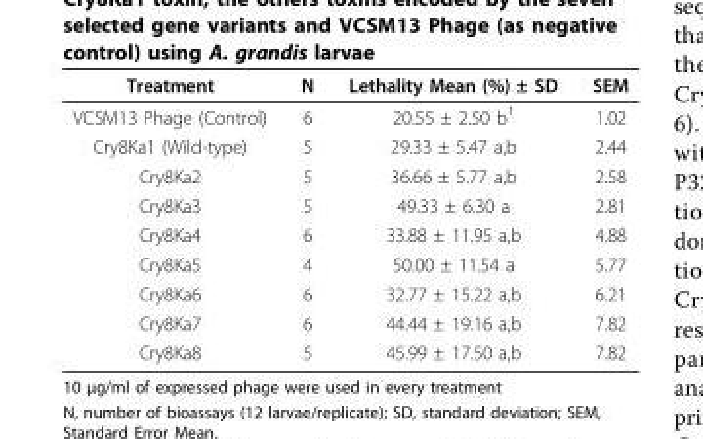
<table><thead><tr><td>Treatment</td><td>N</td><td>Lethality Mean (%) ± SD</td><td>SEM</td></tr></thead><tbody><tr><td>VCSM13 Phage (Control)</td><td>6</td><td>20.55 ± 2.50 b<sup>1</sup></td><td>1.02</td></tr><tr><td>Cry8Ka1 (Wild-type)</td><td>5</td><td>29.33 ± 5.47 a,b</td><td>2.44</td></tr><tr><td>Cry8Ka2</td><td>5</td><td>36.66 ± 5.77 a,b</td><td>2.58</td></tr><tr><td>Cry8Ka3</td><td>5</td><td>49.33 ± 6.30 a</td><td>2.81</td></tr><tr><td>Cry8Ka4</td><td>6</td><td>33.88 ± 11.95 a,b</td><td>4.88</td></tr><tr><td>Cry8Ka5</td><td>4</td><td>50.00 ± 11.54 a</td><td>5.77</td></tr><tr><td>Cry8Ka6</td><td>6</td><td>32.77 ± 15.22 a,b</td><td>6.21</td></tr><tr><td>Cry8Ka7</td><td>6</td><td>44.44 ± 19.16 a,b</td><td>7.82</td></tr><tr><td>Cry8Ka8</td><td>5</td><td>45.99 ± 17.50 a,b</td><td>7.82</td></tr></tbody></table>